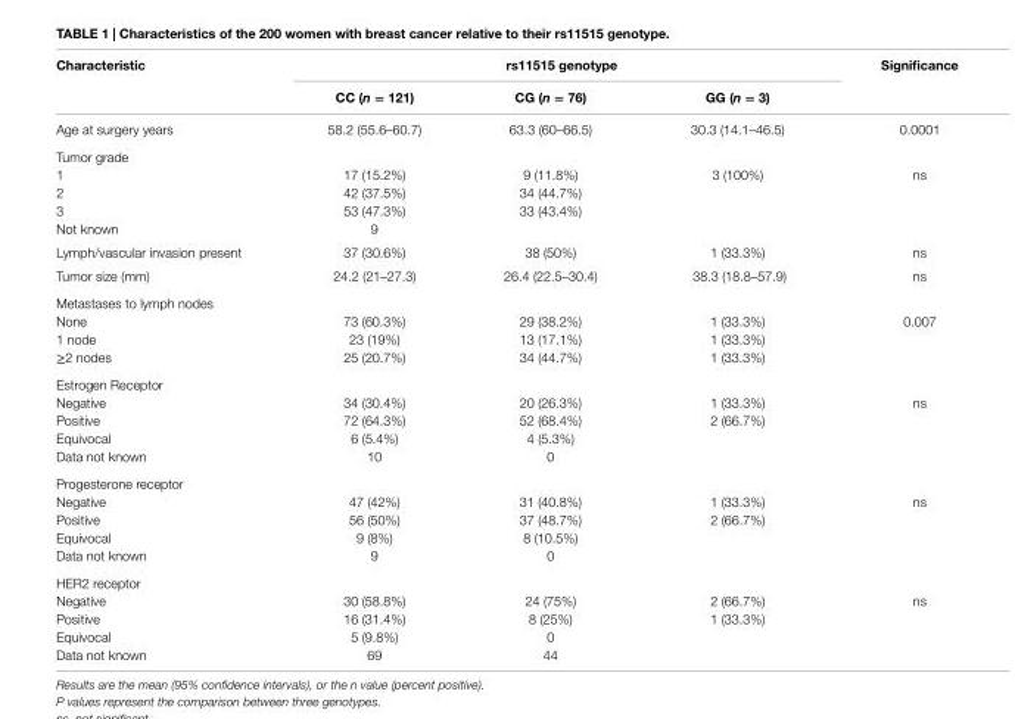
<table><thead><tr><td rowspan="2">characteristic</td><td colspan="3">rs11515 genotype</td><td rowspan="2">significance</td></tr><tr><td>cc (n = 121)</td><td>cg (n = 76)</td><td>gg (n = 3)</td></tr></thead><tbody><tr><td>Age at surgery years</td><td>58.2 (55.6–60.7)</td><td>63.3 (60–66.5)</td><td>30.3 (14.1–46.5)</td><td>0.0001</td></tr><tr><td colspan="5">Tumor grade</td></tr><tr><td>1</td><td>17 (15.2%)</td><td>9 (11.8%)</td><td rowspan="4">3 (100%)</td><td rowspan="4">ns</td></tr><tr><td>2</td><td>42 (37.5%)</td><td>34 (44.7%)</td></tr><tr><td>3</td><td>53 (47.3%)</td><td>33 (43.4%)</td></tr><tr><td>Not known</td><td>9</td><td></td></tr><tr><td>Lymph/vascular invasion present</td><td>37 (30.6%)</td><td>38 (50%)</td><td>1 (33.3%)</td><td>ns</td></tr><tr><td>Tumor size (mm)</td><td>24.2 (21–27.3)</td><td>26.4 (22.5–30.4)</td><td>38.3 (18.8–57.9)</td><td>ns</td></tr><tr><td colspan="5">Metastases to lymph nodes</td></tr><tr><td>None</td><td>73 (60.3%)</td><td>29 (38.2%)</td><td>1 (33.3%)</td><td rowspan="3">0.007</td></tr><tr><td>1 node</td><td>23 (19%)</td><td>13 (17.1%)</td><td>1 (33.3%)</td></tr><tr><td>≥2 nodes</td><td>25 (20.7%)</td><td>34 (44.7%)</td><td>1 (33.3%)</td></tr><tr><td colspan="5">Estrogen Receptor</td></tr><tr><td>Negative</td><td>34 (30.4%)</td><td>20 (26.3%)</td><td>1 (33.3%)</td><td rowspan="4">ns</td></tr><tr><td>Positive</td><td>72 (64.3%)</td><td>52 (68.4%)</td><td>2 (66.7%)</td></tr><tr><td>Equivocal</td><td>6 (5.4%)</td><td>4 (5.3%)</td><td></td></tr><tr><td>Data not known</td><td>10</td><td>0</td><td></td></tr><tr><td colspan="5">Progesterone receptor</td></tr><tr><td>Negative</td><td>47 (42%)</td><td>31 (40.8%)</td><td>1 (33.3%)</td><td>ns</td></tr><tr><td>Positive</td><td>56 (50%)</td><td>37 (48.7%)</td><td>2 (66.7%)</td><td></td></tr><tr><td>Equivocal</td><td>9 (8%)</td><td>8 (10.5%)</td><td></td><td></td></tr><tr><td>Data not known</td><td>9</td><td>0</td><td></td><td></td></tr><tr><td colspan="5">HER2 receptor</td></tr><tr><td>Negative</td><td>30 (58.8%)</td><td>24 (75%)</td><td>2 (66.7%)</td><td rowspan="4">ns</td></tr><tr><td>Positive</td><td>16 (31.4%)</td><td>8 (25%)</td><td>1 (33.3%)</td></tr><tr><td>Equivocal</td><td>5 (9.8%)</td><td>0</td><td></td></tr><tr><td>Data not known</td><td>69</td><td>44</td><td></td></tr></tbody></table>